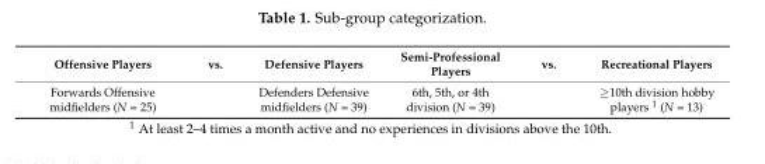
<table><thead><tr><td>Offensive Players</td><td>vs.</td><td>Defensive Players</td><td>Semi-Professional Players</td><td>vs.</td><td>Recreational Players</td></tr></thead><tbody><tr><td>Forwards Offensive midfielders (N = 25)</td><td></td><td>Defenders Defensive midfielders (N = 39)</td><td>6th, 5th, or 4th division (N = 39)</td><td></td><td>≥10th division hobby players <sup>1</sup> (N = 13)</td></tr></tbody></table>